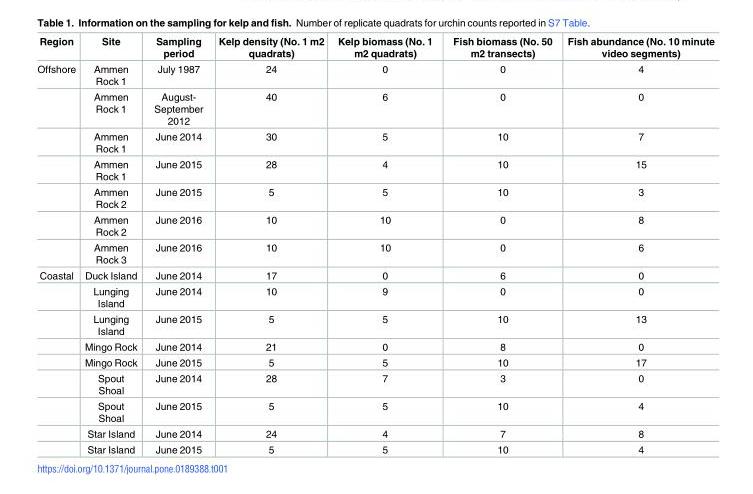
<table><thead><tr><td>Region</td><td>Site</td><td>Sampling period</td><td>Kelp density (No. 1 m2 quadrats)</td><td>Kelp biomass (No. 1 m2 quadrats)</td><td>Fish biomass (No. 50 m2 transects)</td><td>Fish abundance (No. 10 minute video segments)</td></tr></thead><tbody><tr><td rowspan="7">Offshore</td><td>Ammen Rock 1</td><td>July 1987</td><td>24</td><td>0</td><td>0</td><td>4</td></tr><tr><td>Ammen Rock 1</td><td>August- September 2012</td><td>40</td><td>6</td><td>0</td><td>0</td></tr><tr><td>Ammen Rock 1</td><td>June 2014</td><td>30</td><td>5</td><td>10</td><td>7</td></tr><tr><td>Ammen Rock 1</td><td>June 2015</td><td>28</td><td>4</td><td>10</td><td>15</td></tr><tr><td>Ammen Rock 2</td><td>June 2015</td><td>5</td><td>5</td><td>10</td><td>3</td></tr><tr><td>Ammen Rock 2</td><td>June 2016</td><td>10</td><td>10</td><td>0</td><td>8</td></tr><tr><td>Ammen Rock 3</td><td>June 2016</td><td>10</td><td>10</td><td>0</td><td>6</td></tr><tr><td rowspan="9">Coastal</td><td>Duck Island</td><td>June 2014</td><td>17</td><td>0</td><td>6</td><td>0</td></tr><tr><td>Lunging Island</td><td>June 2014</td><td>10</td><td>9</td><td>0</td><td>0</td></tr><tr><td>Lunging Island</td><td>June 2015</td><td>5</td><td>5</td><td>10</td><td>13</td></tr><tr><td>Mingo Rock</td><td>June 2014</td><td>21</td><td>0</td><td>8</td><td>0</td></tr><tr><td>Mingo Rock</td><td>June 2015</td><td>5</td><td>5</td><td>10</td><td>17</td></tr><tr><td>Spout Shoal</td><td>June 2014</td><td>28</td><td>7</td><td>3</td><td>0</td></tr><tr><td>Spout Shoal</td><td>June 2015</td><td>5</td><td>5</td><td>10</td><td>4</td></tr><tr><td>Star Island</td><td>June 2014</td><td>24</td><td>4</td><td>7</td><td>8</td></tr><tr><td>Star Island</td><td>June 2015</td><td>5</td><td>5</td><td>10</td><td>4</td></tr></tbody></table>